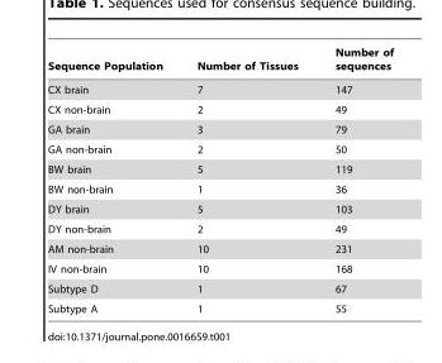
<table><thead><tr><td>Sequence Population</td><td>Number of Tissues</td><td>Number of sequences</td></tr></thead><tbody><tr><td>CX brain</td><td>7</td><td>147</td></tr><tr><td>CX non-brain</td><td>2</td><td>49</td></tr><tr><td>GA brain</td><td>3</td><td>79</td></tr><tr><td>GA non-brain</td><td>2</td><td>50</td></tr><tr><td>BW brain</td><td>5</td><td>119</td></tr><tr><td>BW non-brain</td><td>1</td><td>36</td></tr><tr><td>DY brain</td><td>5</td><td>103</td></tr><tr><td>DY non-brain</td><td>2</td><td>49</td></tr><tr><td>AM non-brain</td><td>10</td><td>231</td></tr><tr><td>IV non-brain</td><td>10</td><td>168</td></tr><tr><td>Subtype D</td><td>1</td><td>67</td></tr><tr><td>Subtype A</td><td>1</td><td>55</td></tr></tbody></table>